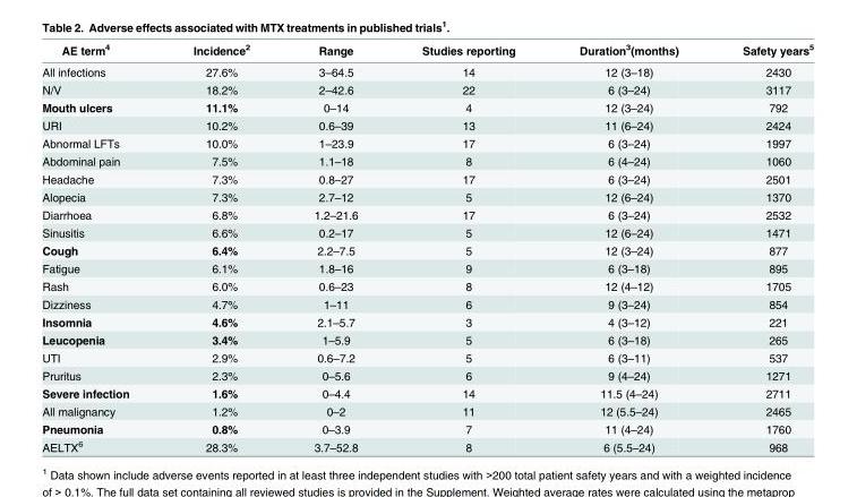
<table><thead><tr><td>AE term<sup>4</sup></td><td>Incidence<sup>2</sup></td><td>Range</td><td>Studies reporting</td><td>Duration<sup>3</sup>(months)</td><td>Safety years<sup>5</sup></td></tr></thead><tbody><tr><td>All infections</td><td>27.6%</td><td>3–64.5</td><td>14</td><td>12 (3–18)</td><td>2430</td></tr><tr><td>N/V</td><td>18.2%</td><td>2–42.6</td><td>22</td><td>6 (3–24)</td><td>3117</td></tr><tr><td>Mouth ulcers</td><td>11.1%</td><td>0–14</td><td>4</td><td>12 (3–24)</td><td>792</td></tr><tr><td>URI</td><td>10.2%</td><td>0.6–39</td><td>13</td><td>11 (6–24)</td><td>2424</td></tr><tr><td>Abnormal LFTs</td><td>10.0%</td><td>1–23.9</td><td>17</td><td>6 (3–24)</td><td>1997</td></tr><tr><td>Abdominal pain</td><td>7.5%</td><td>1.1–18</td><td>8</td><td>6 (4–24)</td><td>1060</td></tr><tr><td>Headache</td><td>7.3%</td><td>0.8–27</td><td>17</td><td>6 (3–24)</td><td>2501</td></tr><tr><td>Alopecia</td><td>7.3%</td><td>2.7–12</td><td>5</td><td>12 (6–24)</td><td>1370</td></tr><tr><td>Diarrhoea</td><td>6.8%</td><td>1.2–21.6</td><td>17</td><td>6 (3–24)</td><td>2532</td></tr><tr><td>Sinusitis</td><td>6.6%</td><td>0.2–17</td><td>5</td><td>12 (6–24)</td><td>1471</td></tr><tr><td>Cough</td><td>6.4%</td><td>2.2–7.5</td><td>5</td><td>12 (3–24)</td><td>877</td></tr><tr><td>Fatigue</td><td>6.1%</td><td>1.8–16</td><td>9</td><td>6 (3–18)</td><td>895</td></tr><tr><td>Rash</td><td>6.0%</td><td>0.6–23</td><td>8</td><td>12 (4–12)</td><td>1705</td></tr><tr><td>Dizziness</td><td>4.7%</td><td>1–11</td><td>6</td><td>9 (3–24)</td><td>854</td></tr><tr><td>Insomnia</td><td>4.6%</td><td>2.1–5.7</td><td>3</td><td>4 (3–12)</td><td>221</td></tr><tr><td>Leucopenia</td><td>3.4%</td><td>1–5.9</td><td>5</td><td>6 (3–18)</td><td>265</td></tr><tr><td>UTI</td><td>2.9%</td><td>0.6–7.2</td><td>5</td><td>6 (3–11)</td><td>537</td></tr><tr><td>Pruritus</td><td>2.3%</td><td>0–5.6</td><td>6</td><td>9 (4–24)</td><td>1271</td></tr><tr><td>Severe infection</td><td>1.6%</td><td>0–4.4</td><td>14</td><td>11.5 (4–24)</td><td>2711</td></tr><tr><td>All malignancy</td><td>1.2%</td><td>0–2</td><td>11</td><td>12 (5.5–24)</td><td>2465</td></tr><tr><td>Pneumonia</td><td>0.8%</td><td>0–3.9</td><td>7</td><td>11 (4–24)</td><td>1760</td></tr><tr><td>AELTX<sup>6</sup></td><td>28.3%</td><td>3.7–52.8</td><td>8</td><td>6 (5.5–24)</td><td>968</td></tr></tbody></table>